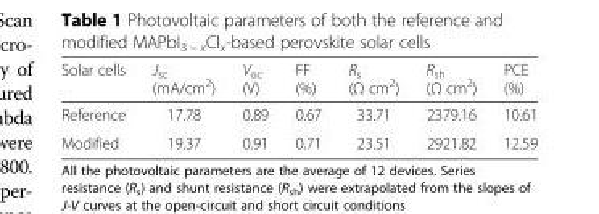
<table><thead><tr><td>Solar cells</td><td>J<sub>sc</sub> (mA/cm<sup>2</sup>)</td><td>V<sub>oc</sub> (V)</td><td>FF (%)</td><td>R<sub>s</sub> (Ω cm<sup>2</sup>)</td><td>R<sub>sh</sub> (Ω cm<sup>2</sup>)</td><td>PCE (%)</td></tr></thead><tbody><tr><td>Reference</td><td>17.78</td><td>0.89</td><td>0.67</td><td>33.71</td><td>2379.16</td><td>10.61</td></tr><tr><td>Modified</td><td>19.37</td><td>0.91</td><td>0.71</td><td>23.51</td><td>2921.82</td><td>12.59</td></tr></tbody></table>